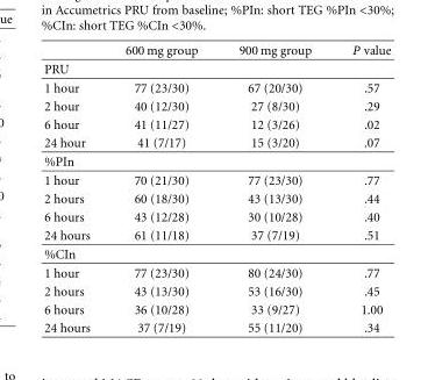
<table><thead><tr><td></td><td>600 mg group</td><td>900 mg group</td><td>P value</td></tr></thead><tbody><tr><td colspan="4">PRU</td></tr><tr><td>1 hour</td><td>77 (23/30)</td><td>67 (20/30)</td><td>.57</td></tr><tr><td>2 hour</td><td>40 (12/30)</td><td>27 (8/30)</td><td>.29</td></tr><tr><td>6 hour</td><td>41 (11/27)</td><td>12 (3/26)</td><td>.02</td></tr><tr><td>24 hour</td><td>41 (7/17)</td><td>15 (3/20)</td><td>.07</td></tr><tr><td colspan="4">%PIn</td></tr><tr><td>1 hour</td><td>70 (21/30)</td><td>77 (23/30)</td><td>.77</td></tr><tr><td>2 hours</td><td>60 (18/30)</td><td>43 (13/30)</td><td>.44</td></tr><tr><td>6 hours</td><td>43 (12/28)</td><td>30 (10/28)</td><td>.40</td></tr><tr><td>24 hours</td><td>61 (11/18)</td><td>37 (7/19)</td><td>.51</td></tr><tr><td colspan="4">%CIn</td></tr><tr><td>1 hour</td><td>77 (23/30)</td><td>80 (24/30)</td><td>.77</td></tr><tr><td>2 hours</td><td>43 (13/30)</td><td>53 (16/30)</td><td>.45</td></tr><tr><td>6 hours</td><td>36 (10/28)</td><td>33 (9/27)</td><td>1.00</td></tr><tr><td>24 hours</td><td>37 (7/19)</td><td>55 (11/20)</td><td>.34</td></tr></tbody></table>